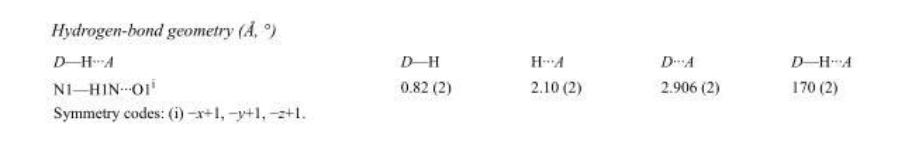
<table><tbody><tr><td>D—H···A</td><td>D—H</td><td>H···A</td><td>D···A</td><td>D—H···A</td></tr><tr><td>N1—H1N···O1<sup>i</sup></td><td>0.82 (2)</td><td>2.10 (2)</td><td>2.906 (2)</td><td>170 (2)</td></tr></tbody></table>